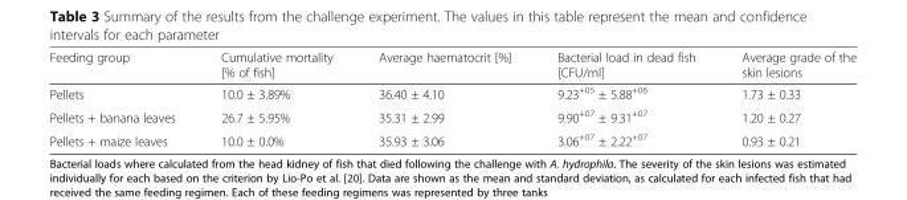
<table><thead><tr><td>Feeding group</td><td>Cumulative mortality [% of fish]</td><td>Average haematocrit [%]</td><td>Bacterial load in dead fish [CFU/ml]</td><td>Average grade of the skin lesions</td></tr></thead><tbody><tr><td>Pellets</td><td>10.0 ± 3.89%</td><td>36.40 ± 4.10</td><td>9.23<sup>+05</sup> ± 5.88<sup>+06</sup></td><td>1.73 ± 0.33</td></tr><tr><td>Pellets + banana leaves</td><td>26.7 ± 5.95%</td><td>35.31 ± 2.99</td><td>9.90<sup>+07</sup> ± 9.31<sup>+07</sup></td><td>1.20 ± 0.27</td></tr><tr><td>Pellets + maize leaves</td><td>10.0 ± 0.0%</td><td>35.93 ± 3.06</td><td>3.06<sup>+07</sup> ± 2.22<sup>+07</sup></td><td>0.93 ± 0.21</td></tr></tbody></table>